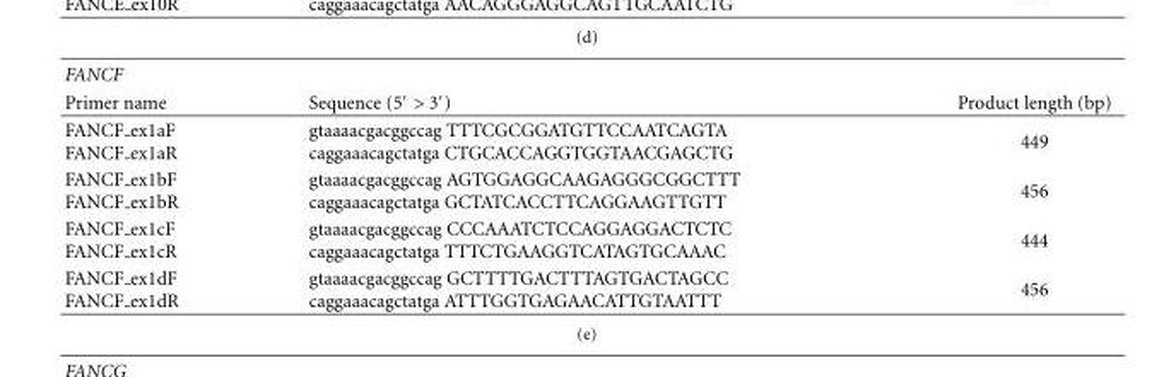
<table><thead><tr><td rowspan="2">FANCF Primer name</td><td rowspan="2">Sequence (5′ &gt; 3′)</td><td rowspan="2">Product length (bp)</td></tr><tr></tr></thead><tbody><tr><td>FANCF <sub>ex1aF FANCF</sub> ex1aR</td><td>gtaaaacgacggccag TTTCGCGGATGTTCCAATCAGTA caggaaacagctatga CTGCACCAGGTGGTAACGAGCTG</td><td>449</td></tr><tr><td>FANCF <sub>ex1bF FANCF</sub> ex1bR</td><td>gtaaaacgacggccag AGTGGAGGCAAGAGGGCGGCTTT caggaaacagctatga GCTATCACCTTCAGGAAGTTGTT</td><td>456</td></tr><tr><td>FANCF <sub>ex1cF FANCF</sub> ex1cR</td><td>gtaaaacgacggccag CCCAAATCTCCAGGAGGACTCTC caggaaacagctatga TTTCTGAAGGTCATAGTGCAAAC</td><td>444</td></tr><tr><td>FANCF <sub>ex1dF FANCF</sub> ex1dR</td><td>gtaaaacgacggccag GCTTTTGACTTTAGTGACTAGCC caggaaacagctatga ATTTGGTGAGAACATTGTAATTT</td><td>456</td></tr></tbody></table>